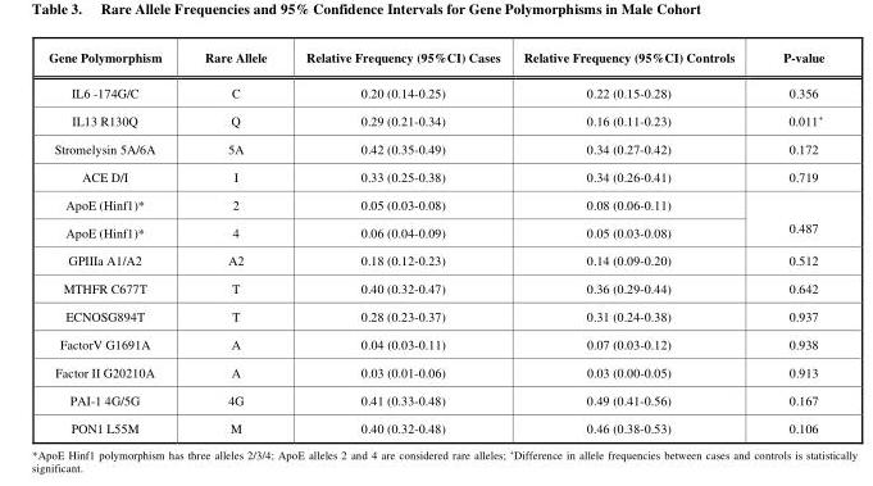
<table><tbody><tr><td>Gene Polymorphism</td><td>Rare Allele</td><td>Relative Frequency (95%CI) Cases</td><td>Relative Frequency (95%CI) Controls</td><td>P-value</td></tr><tr><td>IL6 -174G/C</td><td>C</td><td>0.20 (0.14-0.25)</td><td>0.22 (0.15-0.28)</td><td>0.356</td></tr><tr><td>IL13 R130Q</td><td>Q</td><td>0.29 (0.21-0.34)</td><td>0.16 (0.11-0.23)</td><td>0.011+</td></tr><tr><td>Stromelysin 5A/6A</td><td>5A</td><td>0.42 (0.35-0.49)</td><td>0.34 (0.27-0.42)</td><td>0.172</td></tr><tr><td>ACE D/I</td><td>I</td><td>0.33 (0.25-0.38)</td><td>0.34 (0.26-0.41)</td><td>0.719</td></tr><tr><td>ApoE (Hinf1)*</td><td>2</td><td>0.05 (0.03-0.08)</td><td>0.08 (0.06-0.11)</td><td rowspan="2">0.487</td></tr><tr><td>ApoE (Hinf1)*</td><td>4</td><td>0.06 (0.04-0.09)</td><td>0.05 (0.03-0.08)</td></tr><tr><td>GPIIIa A1/A2</td><td>A2</td><td>0.18 (0.12-0.23)</td><td>0.14 (0.09-0.20)</td><td>0.512</td></tr><tr><td>MTHFR C677T</td><td>T</td><td>0.40 (0.32-0.47)</td><td>0.36 (0.29-0.44)</td><td>0.642</td></tr><tr><td>ECNOSG894T</td><td>T</td><td>0.28 (0.23-0.37)</td><td>0.31 (0.24-0.38)</td><td>0.937</td></tr><tr><td>FactorV G1691A</td><td>A</td><td>0.04 (0.03-0.11)</td><td>0.07 (0.03-0.12)</td><td>0.938</td></tr><tr><td>Factor II G20210A</td><td>A</td><td>0.03 (0.01-0.06)</td><td>0.03 (0.00-0.05)</td><td>0.913</td></tr><tr><td>PAI-1 4G/5G</td><td>4G</td><td>0.41 (0.33-0.48)</td><td>0.49 (0.41-0.56)</td><td>0.167</td></tr><tr><td>PON1 L55M</td><td>M</td><td>0.40 (0.32-0.48)</td><td>0.46 (0.38-0.53)</td><td>0.106</td></tr></tbody></table>